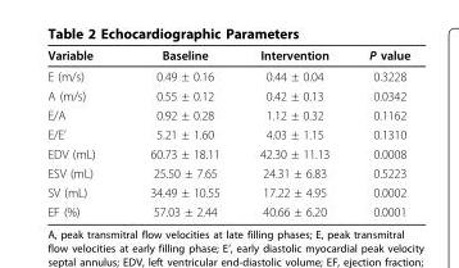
<table><thead><tr><td>Variable</td><td>Baseline</td><td>Intervention</td><td>P value</td></tr></thead><tbody><tr><td>E (m/s)</td><td>0.49 ± 0.16</td><td>0.44 ± 0.04</td><td>0.3228</td></tr><tr><td>A (m/s)</td><td>0.55 ± 0.12</td><td>0.42 ± 0.13</td><td>0.0342</td></tr><tr><td>E/A</td><td>0.92 ± 0.28</td><td>1.12 ± 0.32</td><td>0.1162</td></tr><tr><td>E/E’</td><td>5.21 ± 1.60</td><td>4.03 ± 1.15</td><td>0.1310</td></tr><tr><td>EDV (mL)</td><td>60.73 ± 18.11</td><td>42.30 ± 11.13</td><td>0.0008</td></tr><tr><td>ESV (mL)</td><td>25.50 ± 7.65</td><td>24.31 ± 6.83</td><td>0.5223</td></tr><tr><td>SV (mL)</td><td>34.49 ± 10.55</td><td>17.22 ± 4.95</td><td>0.0002</td></tr><tr><td>EF (%)</td><td>57.03 ± 2.44</td><td>40.66 ± 6.20</td><td>0.0001</td></tr></tbody></table>